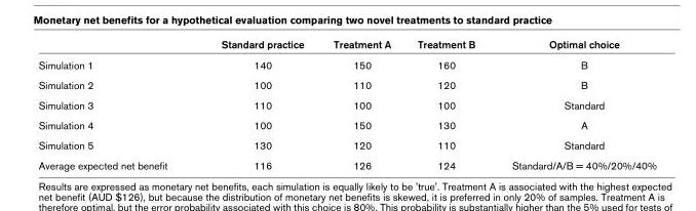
<table><thead><tr><td></td><td>Standard practice</td><td>Treatment A</td><td>Treatment B</td><td>Optimal choice</td></tr></thead><tbody><tr><td>Simulation 1</td><td>140</td><td>150</td><td>160</td><td>B</td></tr><tr><td>Simulation 2</td><td>100</td><td>110</td><td>120</td><td>B</td></tr><tr><td>Simulation 3</td><td>110</td><td>100</td><td>100</td><td>Standard</td></tr><tr><td>Simulation 4</td><td>100</td><td>150</td><td>130</td><td>A</td></tr><tr><td>Simulation 5</td><td>130</td><td>120</td><td>110</td><td>Standard</td></tr><tr><td>Average expected net benefit</td><td>116</td><td>126</td><td>124</td><td>Standard/A/B = 40%/20%/40%</td></tr></tbody></table>